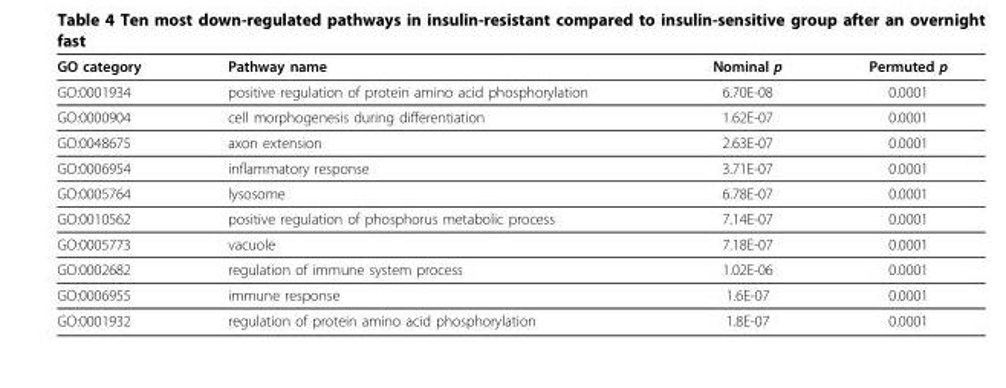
<table><thead><tr><td>GO category</td><td>Pathway name</td><td>Nominal p</td><td>Permuted p</td></tr></thead><tbody><tr><td>GO:0001934</td><td>positive regulation of protein amino acid phosphorylation</td><td>6.70E-08</td><td>0.0001</td></tr><tr><td>GO:0000904</td><td>cell morphogenesis during differentiation</td><td>1.62E-07</td><td>0.0001</td></tr><tr><td>GO:0048675</td><td>axon extension</td><td>2.63E-07</td><td>0.0001</td></tr><tr><td>GO:0006954</td><td>inflammatory response</td><td>3.71E-07</td><td>0.0001</td></tr><tr><td>GO:0005764</td><td>lysosome</td><td>6.78E-07</td><td>0.0001</td></tr><tr><td>GO:0010562</td><td>positive regulation of phosphorus metabolic process</td><td>7.14E-07</td><td>0.0001</td></tr><tr><td>GO:0005773</td><td>vacuole</td><td>7.18E-07</td><td>0.0001</td></tr><tr><td>GO:0002682</td><td>regulation of immune system process</td><td>1.02E-06</td><td>0.0001</td></tr><tr><td>GO:0006955</td><td>immune response</td><td>1.6E-07</td><td>0.0001</td></tr><tr><td>GO:0001932</td><td>regulation of protein amino acid phosphorylation</td><td>1.8E-07</td><td>0.0001</td></tr></tbody></table>